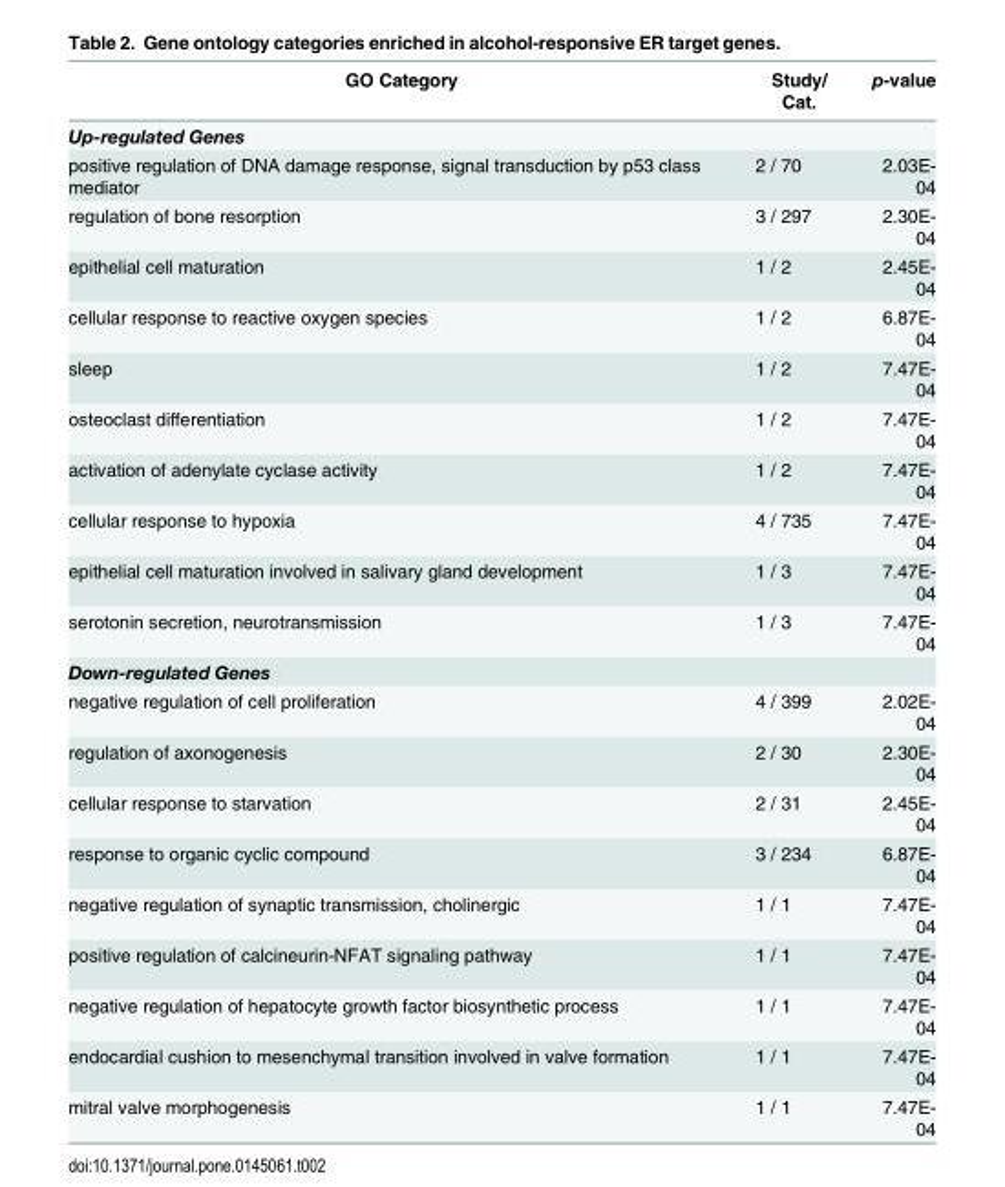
<table><thead><tr><td>GO Category</td><td>Study/ Cat.</td><td>p-value</td></tr></thead><tbody><tr><td colspan="3">Up-regulated Genes</td></tr><tr><td>positive regulation of DNA damage response, signal transduction by p53 class mediator</td><td>2 / 70</td><td>2.03E- 04</td></tr><tr><td>regulation of bone resorption</td><td>3 / 297</td><td>2.30E- 04</td></tr><tr><td>epithelial cell maturation</td><td>1 / 2</td><td>2.45E- 04</td></tr><tr><td>cellular response to reactive oxygen species</td><td>1 / 2</td><td>6.87E- 04</td></tr><tr><td>sleep</td><td>1 / 2</td><td>7.47E- 04</td></tr><tr><td>osteoclast differentiation</td><td>1 / 2</td><td>7.47E- 04</td></tr><tr><td>activation of adenylate cyclase activity</td><td>1 / 2</td><td>7.47E- 04</td></tr><tr><td>cellular response to hypoxia</td><td>4 / 735</td><td>7.47E- 04</td></tr><tr><td>epithelial cell maturation involved in salivary gland development</td><td>1 / 3</td><td>7.47E- 04</td></tr><tr><td>serotonin secretion, neurotransmission</td><td>1 / 3</td><td>7.47E- 04</td></tr><tr><td colspan="3">Down-regulated Genes</td></tr><tr><td>negative regulation of cell proliferation</td><td>4 / 399</td><td>2.02E- 04</td></tr><tr><td>regulation of axonogenesis</td><td>2 / 30</td><td>2.30E- 04</td></tr><tr><td>cellular response to starvation</td><td>2 / 31</td><td>2.45E- 04</td></tr><tr><td>response to organic cyclic compound</td><td>3 / 234</td><td>6.87E- 04</td></tr><tr><td>negative regulation of synaptic transmission, cholinergic</td><td>1 / 1</td><td>7.47E- 04</td></tr><tr><td>positive regulation of calcineurin-NFAT signaling pathway</td><td>1 / 1</td><td>7.47E- 04</td></tr><tr><td>negative regulation of hepatocyte growth factor biosynthetic process</td><td>1 / 1</td><td>7.47E- 04</td></tr><tr><td>endocardial cushion to mesenchymal transition involved in valve formation</td><td>1 / 1</td><td>7.47E- 04</td></tr><tr><td>mitral valve morphogenesis</td><td>1 / 1</td><td>7.47E-</td></tr></tbody></table>